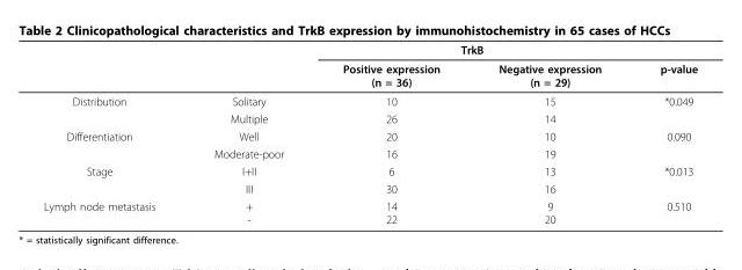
<table><thead><tr><td rowspan="2"></td><td rowspan="2"></td><td colspan="2">TrkB</td><td rowspan="2">p-value</td></tr><tr><td>Positive expression (n = 36)</td><td>Negative expression (n = 29)</td></tr></thead><tbody><tr><td rowspan="2">Distribution</td><td>Solitary</td><td>10</td><td>15</td><td>*0.049</td></tr><tr><td>Multiple</td><td>26</td><td>14</td><td></td></tr><tr><td rowspan="2">Differentiation</td><td>Well</td><td>20</td><td>10</td><td>0.090</td></tr><tr><td>Moderate-poor</td><td>16</td><td>19</td><td></td></tr><tr><td rowspan="2">Stage</td><td>I+II</td><td>6</td><td>13</td><td>*0.013</td></tr><tr><td>III</td><td>30</td><td>16</td><td></td></tr><tr><td>Lymph node metastasis</td><td>+ -</td><td>14 22</td><td>9 20</td><td>0.510</td></tr></tbody></table>